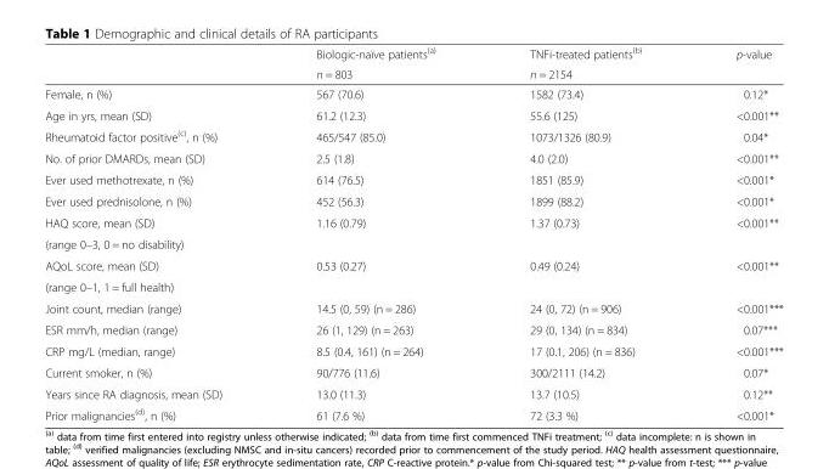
<table><thead><tr><td rowspan="2"></td><td rowspan="2">Biologic-naïve patients<sup>(a)</sup> n = 803</td><td rowspan="2">TNFi-treated patients<sup>(b)</sup> n = 2154</td><td rowspan="2">p-value</td></tr><tr></tr></thead><tbody><tr><td>Female, n (%)</td><td>567 (70.6)</td><td>1582 (73.4)</td><td>0.12*</td></tr><tr><td>Age in yrs, mean (SD)</td><td>61.2 (12.3)</td><td>55.6 (125)</td><td>&lt;0.001**</td></tr><tr><td>Rheumatoid factor positive<sup>(c)</sup>, n (%)</td><td>465/547 (85.0)</td><td>1073/1326 (80.9)</td><td>0.04*</td></tr><tr><td>No. of prior DMARDs, mean (SD)</td><td>2.5 (1.8)</td><td>4.0 (2.0)</td><td>&lt;0.001**</td></tr><tr><td>Ever used methotrexate, n (%)</td><td>614 (76.5)</td><td>1851 (85.9)</td><td>&lt;0.001*</td></tr><tr><td>Ever used prednisolone, n (%)</td><td>452 (56.3)</td><td>1899 (88.2)</td><td>&lt;0.001*</td></tr><tr><td>HAQ score, mean (SD)</td><td rowspan="2">1.16 (0.79)</td><td rowspan="2">1.37 (0.73)</td><td rowspan="2">&lt;0.001**</td></tr><tr><td>(range 0–3, 0 = no disability)</td></tr><tr><td>AQoL score, mean (SD)</td><td rowspan="2">0.53 (0.27)</td><td rowspan="2">0.49 (0.24)</td><td rowspan="2">&lt;0.001**</td></tr><tr><td>(range 0–1, 1 = full health)</td></tr><tr><td>Joint count, median (range)</td><td>14.5 (0, 59) (n = 286)</td><td>24 (0, 72) (n = 906)</td><td>&lt;0.001***</td></tr><tr><td>ESR mm/h, median (range)</td><td>26 (1, 129) (n = 263)</td><td>29 (0, 134) (n = 834)</td><td>0.07***</td></tr><tr><td>CRP mg/L (median, range)</td><td>8.5 (0.4, 161) (n = 264)</td><td>17 (0.1, 206) (n = 836)</td><td>&lt;0.001***</td></tr><tr><td>Current smoker, n (%)</td><td>90/776 (11.6)</td><td>300/2111 (14.2)</td><td>0.07*</td></tr><tr><td>Years since RA diagnosis, mean (SD)</td><td>13.0 (11.3)</td><td>13.7 (10.5)</td><td>0.12**</td></tr><tr><td>Prior malignancies<sup>(d)</sup>, n (%)</td><td>61 (7.6 %)</td><td>72 (3.3 %)</td><td>&lt;0.001*</td></tr></tbody></table>